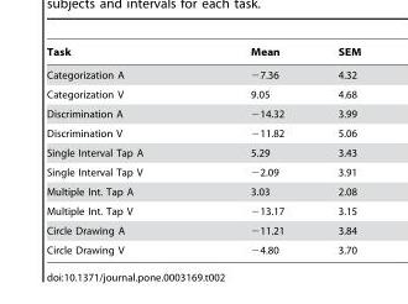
<table><thead><tr><td>Task</td><td>Mean</td><td>SEM</td></tr></thead><tbody><tr><td>Categorization A</td><td>−7.36</td><td>4.32</td></tr><tr><td>Categorization V</td><td>9.05</td><td>4.68</td></tr><tr><td>Discrimination A</td><td>−14.32</td><td>3.99</td></tr><tr><td>Discrimination V</td><td>−11.82</td><td>5.06</td></tr><tr><td>Single Interval Tap A</td><td>5.29</td><td>3.43</td></tr><tr><td>Single Interval Tap V</td><td>−2.09</td><td>3.91</td></tr><tr><td>Multiple Int. Tap A</td><td>3.03</td><td>2.08</td></tr><tr><td>Multiple Int. Tap V</td><td>−13.17</td><td>3.15</td></tr><tr><td>Circle Drawing A</td><td>−11.21</td><td>3.84</td></tr><tr><td>Circle Drawing V</td><td>−4.80</td><td>3.70</td></tr></tbody></table>